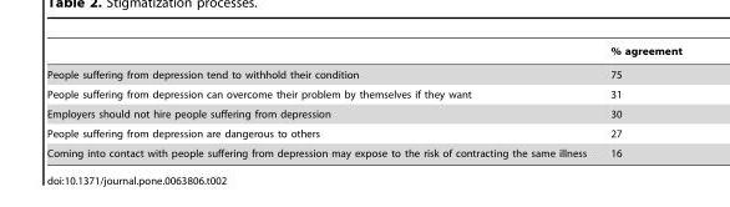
<table><thead><tr><td></td><td>% agreement</td></tr></thead><tbody><tr><td>People suffering from depression tend to withhold their condition</td><td>75</td></tr><tr><td>People suffering from depression can overcome their problem by themselves if they want</td><td>31</td></tr><tr><td>Employers should not hire people suffering from depression</td><td>30</td></tr><tr><td>People suffering from depression are dangerous to others</td><td>27</td></tr><tr><td>Coming into contact with people suffering from depression may expose to the risk of contracting the same illness</td><td>16</td></tr></tbody></table>